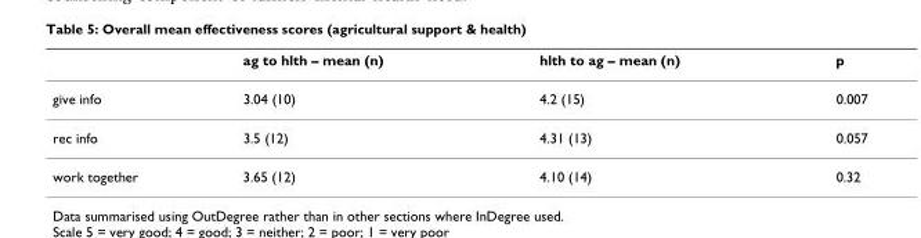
<table><thead><tr><td></td><td>ag to hlth – mean (n)</td><td>hlth to ag – mean (n)</td><td>p</td></tr></thead><tbody><tr><td>give info</td><td>3.04 (10)</td><td>4.2 (15)</td><td>0.007</td></tr><tr><td>rec info</td><td>3.5 (12)</td><td>4.31 (13)</td><td>0.057</td></tr><tr><td>work together</td><td>3.65 (12)</td><td>4.10 (14)</td><td>0.32</td></tr></tbody></table>